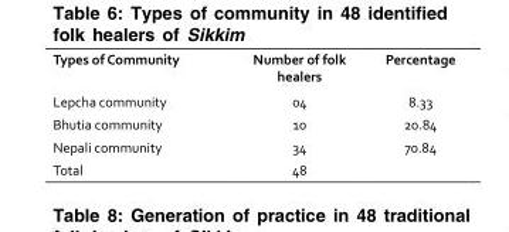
<table><thead><tr><td>Types of Community</td><td>Number of folk healers</td><td>Percentage</td></tr></thead><tbody><tr><td>Lepcha community</td><td>04</td><td>8.33</td></tr><tr><td>Bhutia community</td><td>10</td><td>20.84</td></tr><tr><td>Nepali community</td><td>34</td><td>70.84</td></tr><tr><td>Total</td><td>48</td><td></td></tr></tbody></table>